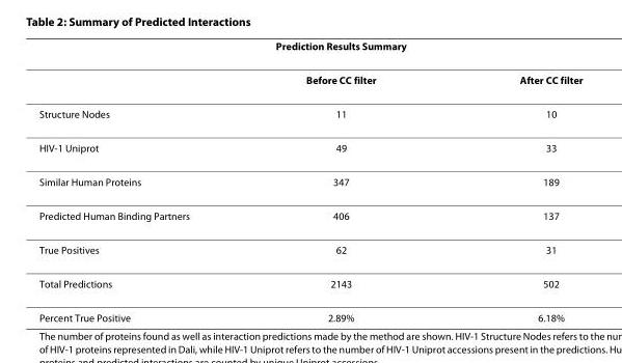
<table><thead><tr><td colspan="3">Prediction Results Summary</td></tr><tr><td></td><td>Before CC filter</td><td>After CC filter</td></tr></thead><tbody><tr><td>Structure Nodes</td><td>11</td><td>10</td></tr><tr><td>HIV-1 Uniprot</td><td>49</td><td>33</td></tr><tr><td>Similar Human Proteins</td><td>347</td><td>189</td></tr><tr><td>Predicted Human Binding Partners</td><td>406</td><td>137</td></tr><tr><td>True Positives</td><td>62</td><td>31</td></tr><tr><td>Total Predictions</td><td>2143</td><td>502</td></tr><tr><td>Percent True Positive</td><td>2.89%</td><td>6.18%</td></tr></tbody></table>